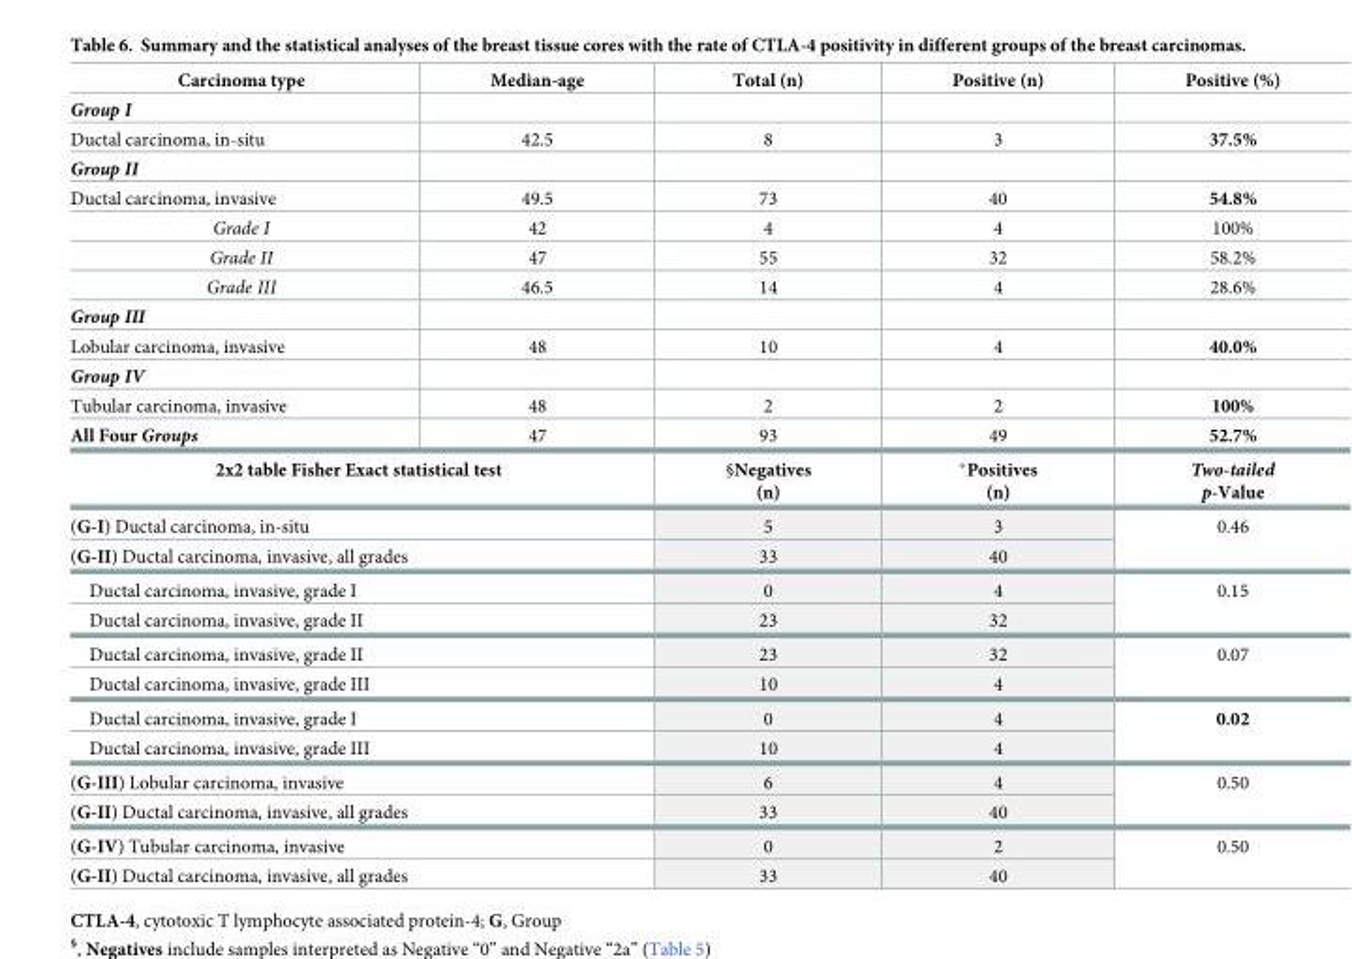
<table><tbody><tr><td>Carcinoma type</td><td>Median-age</td><td>Total (n)</td><td>Positive (n)</td><td>Positive (%)</td></tr><tr><td colspan="5">Group I</td></tr><tr><td>Ductal carcinoma, in-situ</td><td>42.5</td><td>8</td><td>3</td><td>37.5%</td></tr><tr><td colspan="5">Group II</td></tr><tr><td>Ductal carcinoma, invasive</td><td>49.5</td><td>73</td><td>40</td><td>54.8%</td></tr><tr><td>Grade I</td><td>42</td><td>4</td><td>4</td><td>100%</td></tr><tr><td>Grade II</td><td>47</td><td>55</td><td>32</td><td>58.2%</td></tr><tr><td>Grade III</td><td>46.5</td><td>14</td><td>4</td><td>28.6%</td></tr><tr><td colspan="5">Group III</td></tr><tr><td>Lobular carcinoma, invasive</td><td>48</td><td>10</td><td>4</td><td>40.0%</td></tr><tr><td colspan="5">Group IV</td></tr><tr><td>Tubular carcinoma, invasive</td><td>48</td><td>2</td><td>2</td><td>100%</td></tr><tr><td>All Four Groups</td><td>47</td><td>93</td><td>49</td><td>52.7%</td></tr><tr><td colspan="2">2x2 table Fisher Exact statistical test</td><td>§Negatives (n)</td><td>*Positives (n)</td><td>Two-tailed p-Value</td></tr><tr><td colspan="2">(G-I) Ductal carcinoma, in-situ</td><td>5</td><td>3</td><td rowspan="2">0.46</td></tr><tr><td colspan="2">(G-II) Ductal carcinoma, invasive, all grades</td><td>33</td><td>40</td></tr><tr><td colspan="2">Ductal carcinoma, invasive, grade I</td><td>0</td><td>4</td><td rowspan="2">0.15</td></tr><tr><td colspan="2">Ductal carcinoma, invasive, grade II</td><td>23</td><td>32</td></tr><tr><td colspan="2">Ductal carcinoma, invasive, grade II</td><td>23</td><td>32</td><td rowspan="2">0.07</td></tr><tr><td colspan="2">Ductal carcinoma, invasive, grade III</td><td>10</td><td>4</td></tr><tr><td colspan="2">Ductal carcinoma, invasive, grade I</td><td>0</td><td>4</td><td rowspan="2">0.02</td></tr><tr><td colspan="2">Ductal carcinoma, invasive, grade III</td><td>10</td><td>4</td></tr><tr><td colspan="2">(G-III) Lobular carcinoma, invasive</td><td>6</td><td>4</td><td rowspan="2">0.50</td></tr><tr><td colspan="2">(G-II) Ductal carcinoma, invasive, all grades</td><td>33</td><td>40</td></tr><tr><td colspan="2">(G-IV) Tubular carcinoma, invasive</td><td>0</td><td>2</td><td rowspan="2">0.50</td></tr><tr><td colspan="2">(G-II) Ductal carcinoma, invasive, all grades</td><td>33</td><td>40</td></tr></tbody></table>